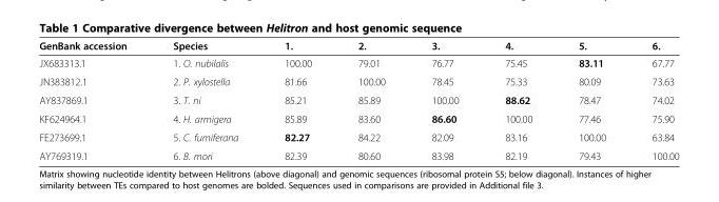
<table><thead><tr><td>GenBank accession</td><td>Species</td><td>1.</td><td>2.</td><td>3.</td><td>4.</td><td>5.</td><td>6.</td></tr></thead><tbody><tr><td>JX683313.1</td><td>1. O. nubilalis</td><td>100.00</td><td>79.01</td><td>76.77</td><td>75.45</td><td>83.11</td><td>67.77</td></tr><tr><td>JN383812.1</td><td>2. P. xylostella</td><td>81.66</td><td>100.00</td><td>78.45</td><td>75.33</td><td>80.09</td><td>73.63</td></tr><tr><td>AY837869.1</td><td>3. T. ni</td><td>85.21</td><td>85.89</td><td>100.00</td><td>88.62</td><td>78.47</td><td>74.02</td></tr><tr><td>KF624964.1</td><td>4. H. armigera</td><td>85.89</td><td>83.60</td><td>86.60</td><td>100.00</td><td>77.46</td><td>75.90</td></tr><tr><td>FE273699.1</td><td>5. C. fumiferana</td><td>82.27</td><td>84.22</td><td>82.09</td><td>83.16</td><td>100.00</td><td>63.84</td></tr><tr><td>AY769319.1</td><td>6. B. mori</td><td>82.39</td><td>80.60</td><td>83.98</td><td>82.19</td><td>79.43</td><td>100.00</td></tr></tbody></table>